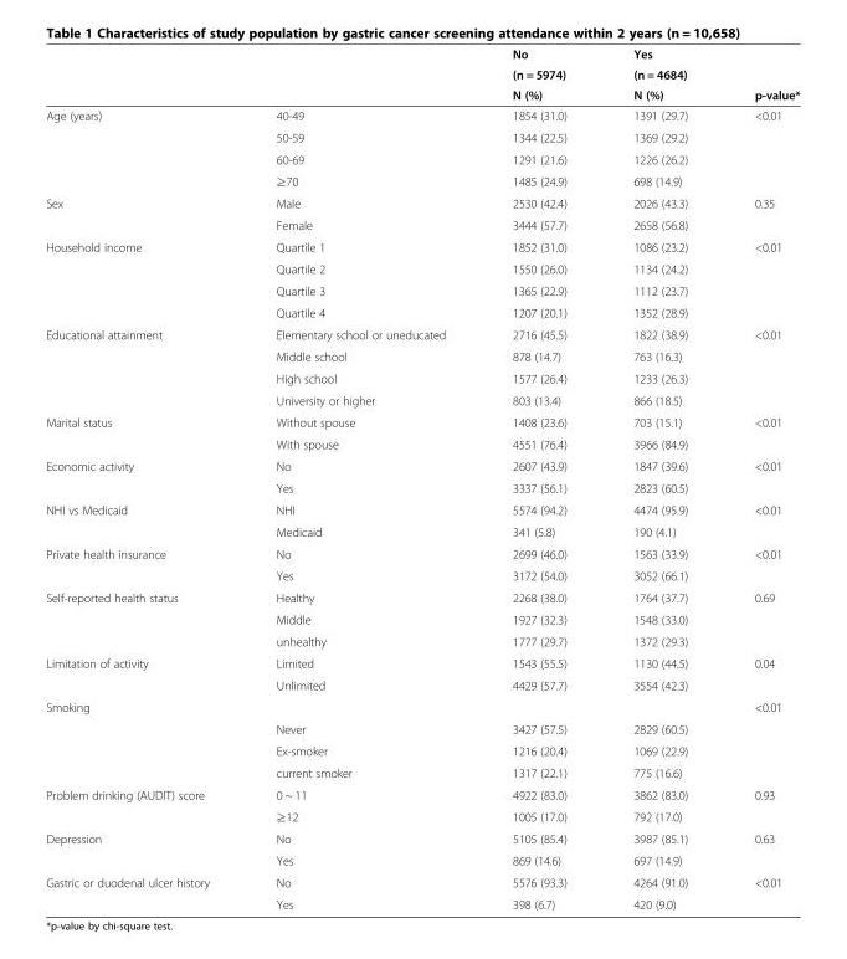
<table><thead><tr><td rowspan="3"></td><td rowspan="3"></td><td rowspan="3">No (n = 5974) N (%)</td><td rowspan="3">Yes (n = 4684) N (%)</td><td rowspan="3">p-value*</td></tr><tr></tr><tr></tr></thead><tbody><tr><td rowspan="4">Age (years)</td><td>40-49</td><td>1854 (31.0)</td><td>1391 (29.7)</td><td>&lt;0.01</td></tr><tr><td>50-59</td><td>1344 (22.5)</td><td>1369 (29.2)</td><td></td></tr><tr><td>60-69</td><td>1291 (21.6)</td><td>1226 (26.2)</td><td></td></tr><tr><td>≥70</td><td>1485 (24.9)</td><td>698 (14.9)</td><td></td></tr><tr><td rowspan="2">Sex</td><td>Male</td><td>2530 (42.4)</td><td>2026 (43.3)</td><td>0.35</td></tr><tr><td>Female</td><td>3444 (57.7)</td><td>2658 (56.8)</td><td></td></tr><tr><td rowspan="4">Household income</td><td>Quartile 1</td><td>1852 (31.0)</td><td>1086 (23.2)</td><td>&lt;0.01</td></tr><tr><td>Quartile 2</td><td>1550 (26.0)</td><td>1134 (24.2)</td><td></td></tr><tr><td>Quartile 3</td><td>1365 (22.9)</td><td>1112 (23.7)</td><td></td></tr><tr><td>Quartile 4</td><td>1207 (20.1)</td><td>1352 (28.9)</td><td></td></tr><tr><td rowspan="4">Educational attainment</td><td>Elementary school or uneducated</td><td>2716 (45.5)</td><td>1822 (38.9)</td><td>&lt;0.01</td></tr><tr><td>Middle school</td><td>878 (14.7)</td><td>763 (16.3)</td><td></td></tr><tr><td>High school</td><td>1577 (26.4)</td><td>1233 (26.3)</td><td></td></tr><tr><td>University or higher</td><td>803 (13.4)</td><td>866 (18.5)</td><td></td></tr><tr><td rowspan="2">Marital status</td><td>Without spouse</td><td>1408 (23.6)</td><td>703 (15.1)</td><td>&lt;0.01</td></tr><tr><td>With spouse</td><td>4551 (76.4)</td><td>3966 (84.9)</td><td></td></tr><tr><td rowspan="2">Economic activity</td><td>No</td><td>2607 (43.9)</td><td>1847 (39.6)</td><td>&lt;0.01</td></tr><tr><td>Yes</td><td>3337 (56.1)</td><td>2823 (60.5)</td><td></td></tr><tr><td rowspan="2">NHI vs Medicaid</td><td>NHI</td><td>5574 (94.2)</td><td>4474 (95.9)</td><td>&lt;0.01</td></tr><tr><td>Medicaid</td><td>341 (5.8)</td><td>190 (4.1)</td><td></td></tr><tr><td rowspan="2">Private health insurance</td><td>No</td><td>2699 (46.0)</td><td>1563 (33.9)</td><td>&lt;0.01</td></tr><tr><td>Yes</td><td>3172 (54.0)</td><td>3052 (66.1)</td><td></td></tr><tr><td rowspan="3">Self-reported health status</td><td>Healthy</td><td>2268 (38.0)</td><td>1764 (37.7)</td><td>0.69</td></tr><tr><td>Middle</td><td>1927 (32.3)</td><td>1548 (33.0)</td><td></td></tr><tr><td>unhealthy</td><td>1777 (29.7)</td><td>1372 (29.3)</td><td></td></tr><tr><td rowspan="2">Limitation of activity</td><td>Limited</td><td>1543 (55.5)</td><td>1130 (44.5)</td><td>0.04</td></tr><tr><td>Unlimited</td><td>4429 (57.7)</td><td>3554 (42.3)</td><td></td></tr><tr><td rowspan="4">Smoking</td><td></td><td></td><td></td><td>&lt;0.01</td></tr><tr><td>Never</td><td>3427 (57.5)</td><td>2829 (60.5)</td><td></td></tr><tr><td>Ex-smoker</td><td>1216 (20.4)</td><td>1069 (22.9)</td><td></td></tr><tr><td>current smoker</td><td>1317 (22.1)</td><td>775 (16.6)</td><td></td></tr><tr><td rowspan="2">Problem drinking (AUDIT) score</td><td>0 ~ 11</td><td>4922 (83.0)</td><td>3862 (83.0)</td><td>0.93</td></tr><tr><td>≥12</td><td>1005 (17.0)</td><td>792 (17.0)</td><td></td></tr><tr><td rowspan="2">Depression</td><td>No</td><td>5105 (85.4)</td><td>3987 (85.1)</td><td>0.63</td></tr><tr><td>Yes</td><td>869 (14.6)</td><td>697 (14.9)</td><td></td></tr><tr><td rowspan="2">Gastric or duodenal ulcer history</td><td>No</td><td>5576 (93.3)</td><td>4264 (91.0)</td><td>&lt;0.01</td></tr><tr><td>Yes</td><td>398 (6.7)</td><td>420 (9.0)</td><td></td></tr></tbody></table>